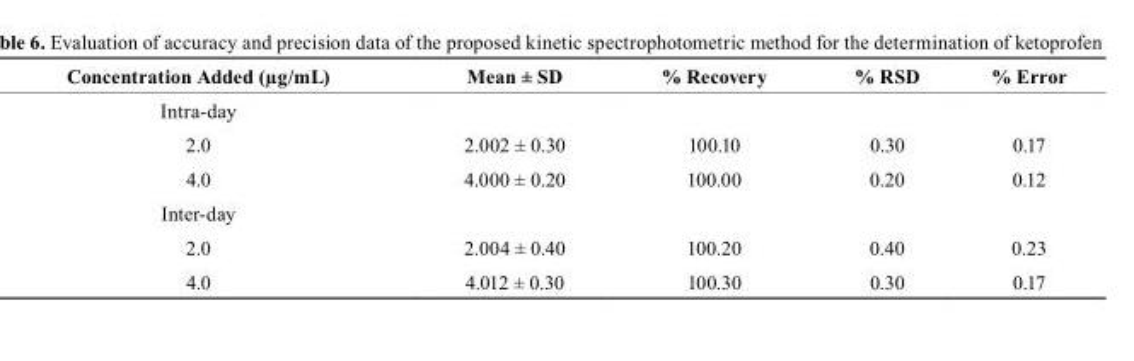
<table><thead><tr><td>Concentration Added (µg/mL)</td><td>Mean ± SD</td><td>% Recovery</td><td>% RSD</td><td>% Error</td></tr></thead><tbody><tr><td colspan="5">Intra-day</td></tr><tr><td>2.0</td><td>2.002 ± 0.30</td><td>100.10</td><td>0.30</td><td>0.17</td></tr><tr><td>4.0</td><td>4.000 ± 0.20</td><td>100.00</td><td>0.20</td><td>0.12</td></tr><tr><td colspan="5">Inter-day</td></tr><tr><td>2.0</td><td>2.004 ± 0.40</td><td>100.20</td><td>0.40</td><td>0.23</td></tr><tr><td>4.0</td><td>4.012 ± 0.30</td><td>100.30</td><td>0.30</td><td>0.17</td></tr></tbody></table>